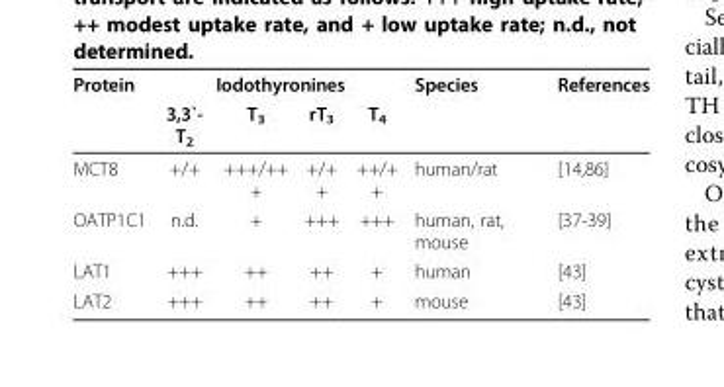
<table><thead><tr><td rowspan="2">Protein</td><td colspan="4">Iodothyronines</td><td rowspan="2">Species</td><td rowspan="2">References</td></tr><tr><td>3,3`- T<sub>2</sub></td><td>T<sub>3</sub></td><td>rT<sub>3</sub></td><td>T<sub>4</sub></td></tr></thead><tbody><tr><td>MCT8</td><td>+/+</td><td>+++/++ +</td><td>+/+ +</td><td>++/+ +</td><td>human/rat</td><td>[14,86]</td></tr><tr><td>OATP1C1</td><td>n.d.</td><td>+</td><td>+++</td><td>+++</td><td>human, rat, mouse</td><td>[37-39]</td></tr><tr><td>LAT1</td><td>+++</td><td>++</td><td>++</td><td>+</td><td>human</td><td>[43]</td></tr><tr><td>LAT2</td><td>+++</td><td>++</td><td>++</td><td>+</td><td>mouse</td><td>[43]</td></tr></tbody></table>